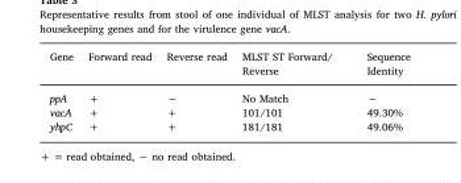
<table><thead><tr><td>Gene</td><td>Forward read</td><td>Reverse read</td><td>MLST ST Forward/ Reverse</td><td>Sequence Identity</td></tr></thead><tbody><tr><td>ppA</td><td>+</td><td>−</td><td>No Match</td><td>−</td></tr><tr><td>vacA</td><td>+</td><td>+</td><td>101/101</td><td>49.30%</td></tr><tr><td>yhpC</td><td>+</td><td>+</td><td>181/181</td><td>49.06%</td></tr></tbody></table>